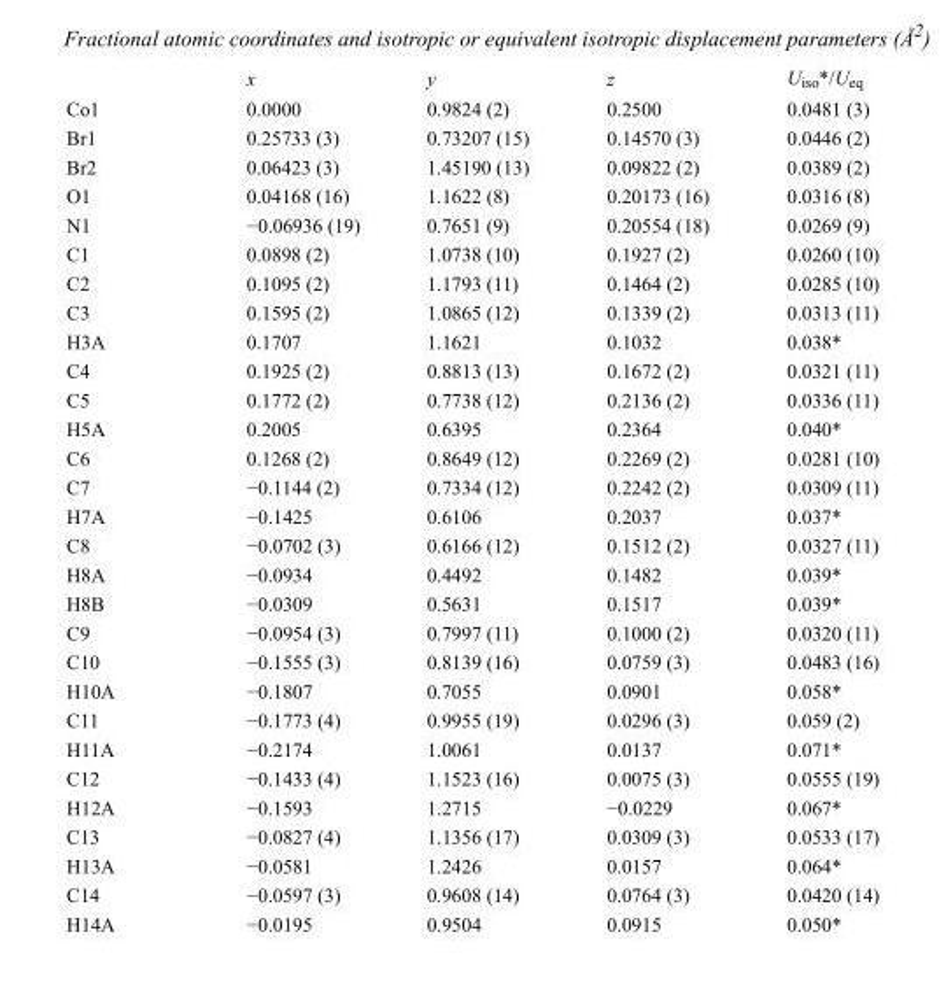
<table><thead><tr><td></td><td>x</td><td>y</td><td>z</td><td>U<sub>iso</sub>*/U<sub>eq</sub></td></tr></thead><tbody><tr><td>Co1</td><td>0.0000</td><td>0.9824 (2)</td><td>0.2500</td><td>0.0481 (3)</td></tr><tr><td>Br1</td><td>0.25733 (3)</td><td>0.73207 (15)</td><td>0.14570 (3)</td><td>0.0446 (2)</td></tr><tr><td>Br2</td><td>0.06423 (3)</td><td>1.45190 (13)</td><td>0.09822 (2)</td><td>0.0389 (2)</td></tr><tr><td>O1</td><td>0.04168 (16)</td><td>1.1622 (8)</td><td>0.20173 (16)</td><td>0.0316 (8)</td></tr><tr><td>N1</td><td>−0.06936 (19)</td><td>0.7651 (9)</td><td>0.20554 (18)</td><td>0.0269 (9)</td></tr><tr><td>C1</td><td>0.0898 (2)</td><td>1.0738 (10)</td><td>0.1927 (2)</td><td>0.0260 (10)</td></tr><tr><td>C2</td><td>0.1095 (2)</td><td>1.1793 (11)</td><td>0.1464 (2)</td><td>0.0285 (10)</td></tr><tr><td>C3</td><td>0.1595 (2)</td><td>1.0865 (12)</td><td>0.1339 (2)</td><td>0.0313 (11)</td></tr><tr><td>H3A</td><td>0.1707</td><td>1.1621</td><td>0.1032</td><td>0.038*</td></tr><tr><td>C4</td><td>0.1925 (2)</td><td>0.8813 (13)</td><td>0.1672 (2)</td><td>0.0321 (11)</td></tr><tr><td>C5</td><td>0.1772 (2)</td><td>0.7738 (12)</td><td>0.2136 (2)</td><td>0.0336 (11)</td></tr><tr><td>H5A</td><td>0.2005</td><td>0.6395</td><td>0.2364</td><td>0.040*</td></tr><tr><td>C6</td><td>0.1268 (2)</td><td>0.8649 (12)</td><td>0.2269 (2)</td><td>0.0281 (10)</td></tr><tr><td>C7</td><td>−0.1144 (2)</td><td>0.7334 (12)</td><td>0.2242 (2)</td><td>0.0309 (11)</td></tr><tr><td>H7A</td><td>−0.1425</td><td>0.6106</td><td>0.2037</td><td>0.037*</td></tr><tr><td>C8</td><td>−0.0702 (3)</td><td>0.6166 (12)</td><td>0.1512 (2)</td><td>0.0327 (11)</td></tr><tr><td>H8A</td><td>−0.0934</td><td>0.4492</td><td>0.1482</td><td>0.039*</td></tr><tr><td>H8B</td><td>−0.0309</td><td>0.5631</td><td>0.1517</td><td>0.039*</td></tr><tr><td>C9</td><td>−0.0954 (3)</td><td>0.7997 (11)</td><td>0.1000 (2)</td><td>0.0320 (11)</td></tr><tr><td>C10</td><td>−0.1555 (3)</td><td>0.8139 (16)</td><td>0.0759 (3)</td><td>0.0483 (16)</td></tr><tr><td>H10A</td><td>−0.1807</td><td>0.7055</td><td>0.0901</td><td>0.058*</td></tr><tr><td>C11</td><td>−0.1773 (4)</td><td>0.9955 (19)</td><td>0.0296 (3)</td><td>0.059 (2)</td></tr><tr><td>H11A</td><td>−0.2174</td><td>1.0061</td><td>0.0137</td><td>0.071*</td></tr><tr><td>C12</td><td>−0.1433 (4)</td><td>1.1523 (16)</td><td>0.0075 (3)</td><td>0.0555 (19)</td></tr><tr><td>H12A</td><td>−0.1593</td><td>1.2715</td><td>−0.0229</td><td>0.067*</td></tr><tr><td>C13</td><td>−0.0827 (4)</td><td>1.1356 (17)</td><td>0.0309 (3)</td><td>0.0533 (17)</td></tr><tr><td>H13A</td><td>−0.0581</td><td>1.2426</td><td>0.0157</td><td>0.064*</td></tr><tr><td>C14</td><td>−0.0597 (3)</td><td>0.9608 (14)</td><td>0.0764 (3)</td><td>0.0420 (14)</td></tr><tr><td>H14A</td><td>−0.0195</td><td>0.9504</td><td>0.0915</td><td>0.050*</td></tr></tbody></table>